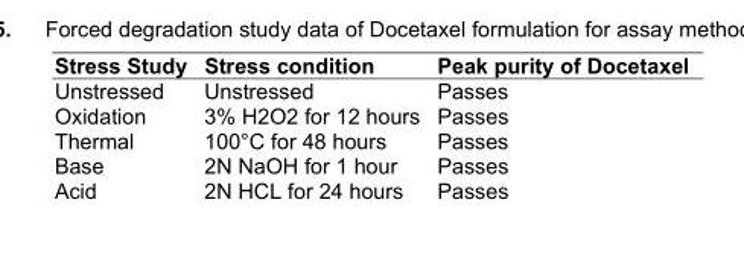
<table><thead><tr><td>Stress Study</td><td>Stress condition</td><td>Peak purity of Docetaxel</td></tr></thead><tbody><tr><td>Unstressed</td><td>Unstressed</td><td>Passes</td></tr><tr><td>Oxidation</td><td>3% H2O2 for 12 hours</td><td>Passes</td></tr><tr><td>Thermal</td><td>100°C for 48 hours</td><td>Passes</td></tr><tr><td>Base</td><td>2N NaOH for 1 hour</td><td>Passes</td></tr><tr><td>Acid</td><td>2N HCL for 24 hours</td><td>Passes</td></tr></tbody></table>